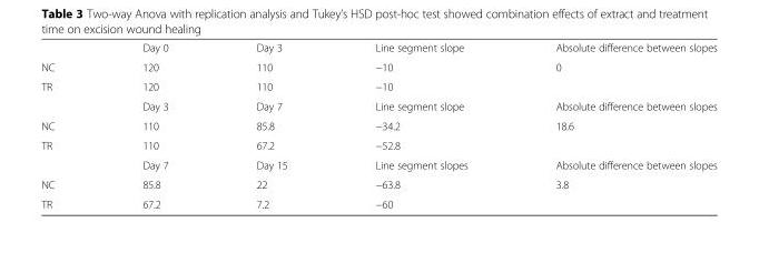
<table><thead><tr><td></td><td>Day 0</td><td>Day 3</td><td>Line segment slope</td><td>Absolute difference between slopes</td></tr></thead><tbody><tr><td>NC</td><td>120</td><td>110</td><td>−10</td><td>0</td></tr><tr><td rowspan="2">TR</td><td>120</td><td>110</td><td>−10</td><td></td></tr><tr><td>Day 3</td><td>Day 7</td><td>Line segment slope</td><td>Absolute difference between slopes</td></tr><tr><td>NC</td><td>110</td><td>85.8</td><td>−34.2</td><td>18.6</td></tr><tr><td rowspan="2">TR</td><td>110</td><td>67.2</td><td>−52.8</td><td></td></tr><tr><td>Day 7</td><td>Day 15</td><td>Line segment slopes</td><td>Absolute difference between slopes</td></tr><tr><td>NC</td><td>85.8</td><td>22</td><td>−63.8</td><td>3.8</td></tr><tr><td>TR</td><td>67.2</td><td>7.2</td><td>−60</td><td></td></tr></tbody></table>